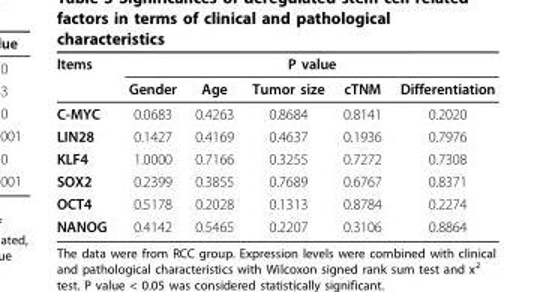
<table><tbody><tr><td rowspan="2">Items</td><td colspan="5">P value</td></tr><tr><td>Gender</td><td>Age</td><td>Tumor size</td><td>cTNM</td><td>Differentiation</td></tr><tr><td>C-MYC</td><td>0.0683</td><td>0.4263</td><td>0.8684</td><td>0.8141</td><td>0.2020</td></tr><tr><td>LIN28</td><td>0.1427</td><td>0.4169</td><td>0.4637</td><td>0.1936</td><td>0.7976</td></tr><tr><td>KLF4</td><td>1.0000</td><td>0.7166</td><td>0.3255</td><td>0.7272</td><td>0.7308</td></tr><tr><td>SOX2</td><td>0.2399</td><td>0.3855</td><td>0.7689</td><td>0.6767</td><td>0.8371</td></tr><tr><td>OCT4</td><td>0.5178</td><td>0.2028</td><td>0.1313</td><td>0.8784</td><td>0.2274</td></tr><tr><td>NANOG</td><td>0.4142</td><td>0.5465</td><td>0.2207</td><td>0.3106</td><td>0.8864</td></tr></tbody></table>